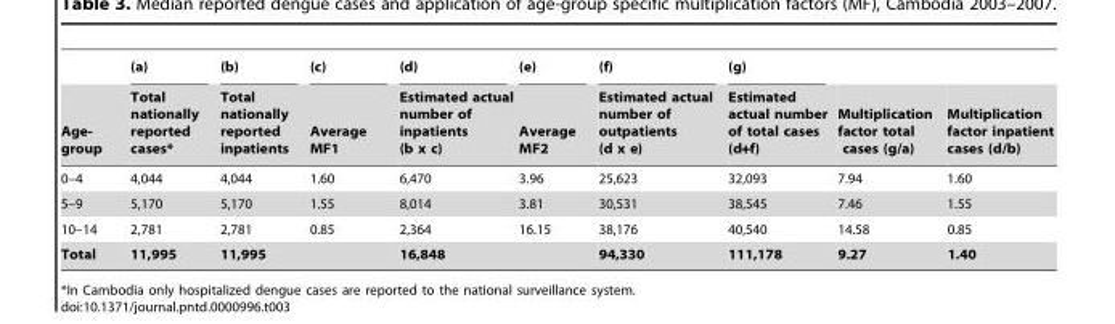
<table><thead><tr><td rowspan="2">Age- group</td><td rowspan="2">(a) Total nationally reported cases*</td><td rowspan="2">(b) Total nationally reported inpatients</td><td rowspan="2">(c) Average MF1</td><td rowspan="2">(d) Estimated actual number of inpatients (b x c)</td><td rowspan="2">(e) Average MF2</td><td rowspan="2">(f) Estimated actual number of outpatients (d x e)</td><td rowspan="2">(g) Estimated actual number of total cases (d+f)</td><td rowspan="2">Multiplication factor total cases (g/a)</td><td rowspan="2">Multiplication factor inpatient cases (d/b)</td></tr><tr></tr></thead><tbody><tr><td>0–4</td><td>4,044</td><td>4,044</td><td>1.60</td><td>6,470</td><td>3.96</td><td>25,623</td><td>32,093</td><td>7.94</td><td>1.60</td></tr><tr><td>5–9</td><td>5,170</td><td>5,170</td><td>1.55</td><td>8,014</td><td>3.81</td><td>30,531</td><td>38,545</td><td>7.46</td><td>1.55</td></tr><tr><td>10–14</td><td>2,781</td><td>2,781</td><td>0.85</td><td>2,364</td><td>16.15</td><td>38,176</td><td>40,540</td><td>14.58</td><td>0.85</td></tr><tr><td>Total</td><td>11,995</td><td>11,995</td><td></td><td>16,848</td><td></td><td>94,330</td><td>111,178</td><td>9.27</td><td>1.40</td></tr></tbody></table>